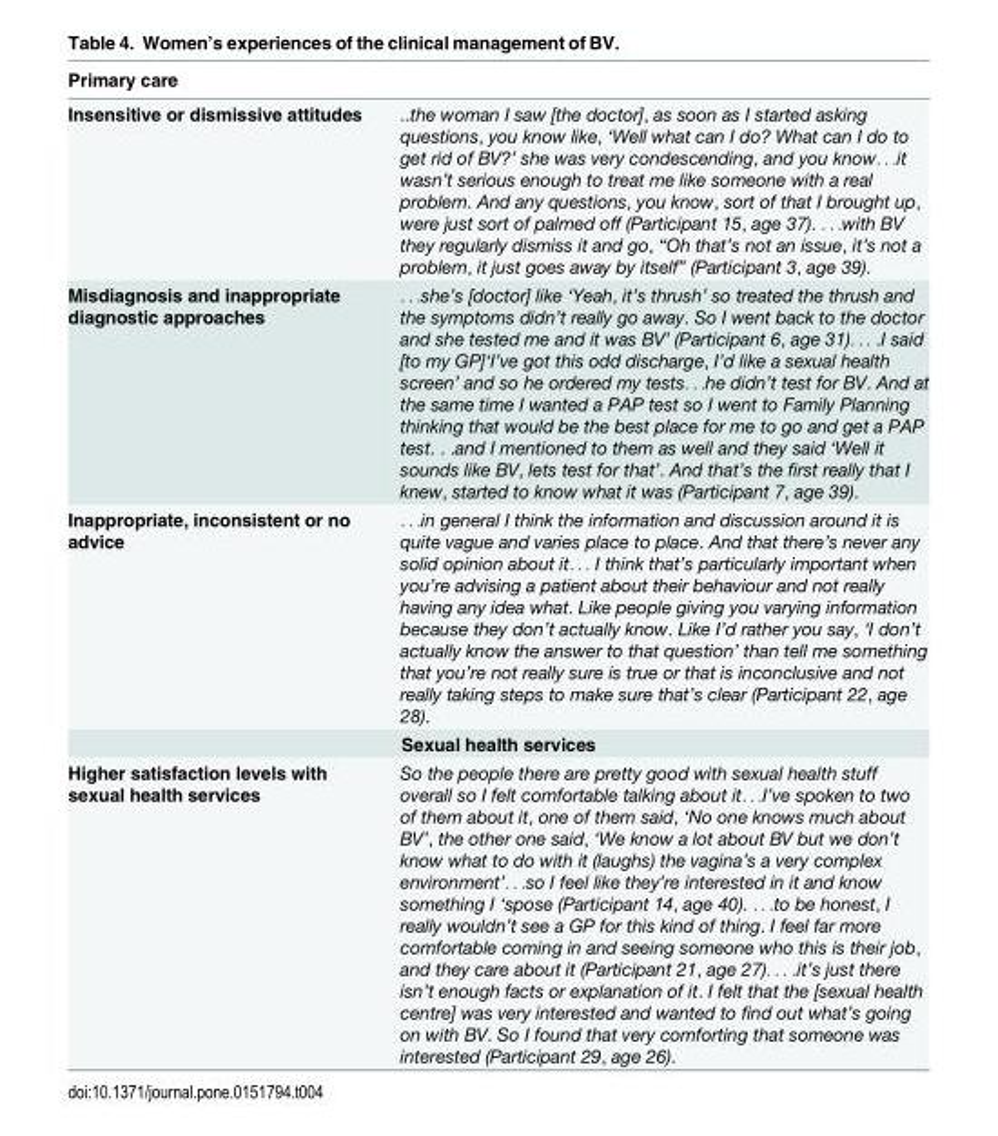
<table><thead><tr><td colspan="2">Primary care</td></tr><tr><td>Insensitive or dismissive attitudes</td><td>..the woman I saw [the doctor], as soon as I started asking questions, you know like, ‘Well what can I do? What can I do to get rid of BV?’ she was very condescending, and you know. . .it wasn’t serious enough to treat me like someone with a real problem. And any questions, you know, sort of that I brought up, were just sort of palmed off (Participant 15, age 37). . . .with BV they regularly dismiss it and go, “Oh that’s not an issue, it’s not a problem, it just goes away by itself” (Participant 3, age 39).</td></tr></thead><tbody><tr><td>Misdiagnosis and inappropriate diagnostic approaches</td><td>. . .she’s [doctor] like ‘Yeah, it’s thrush’ so treated the thrush and the symptoms didn’t really go away. So I went back to the doctor and she tested me and it was BV’ (Participant 6, age 31). . . .I said [to my GP]‘I’ve got this odd discharge, I’d like a sexual health screen’ and so he ordered my tests. . .he didn’t test for BV. And at the same time I wanted a PAP test so I went to Family Planning thinking that would be the best place for me to go and get a PAP test. . .and I mentioned to them as well and they said ‘Well it sounds like BV, lets test for that’. And that’s the first really that I knew, started to know what it was (Participant 7, age 39).</td></tr><tr><td>Inappropriate, inconsistent or no advice</td><td>. . .in general I think the information and discussion around it is quite vague and varies place to place. And that there’s never any solid opinion about it. . . I think that’s particularly important when you’re advising a patient about their behaviour and not really having any idea what. Like people giving you varying information because they don’t actually know. Like I’d rather you say, ‘I don’t actually know the answer to that question’ than tell me something that you’re not really sure is true or that is inconclusive and not really taking steps to make sure that’s clear (Participant 22, age 28).</td></tr><tr><td colspan="2">Sexual health services</td></tr><tr><td>Higher satisfaction levels with sexual health services</td><td>So the people there are pretty good with sexual health stuff overall so I felt comfortable talking about it. . .I’ve spoken to two of them about it, one of them said, ‘No one knows much about BV’, the other one said, ‘We know a lot about BV but we don’t know what to do with it (laughs) the vagina’s a very complex environment’. . .so I feel like they’re interested in it and know something I ‘spose (Participant 14, age 40). . . .to be honest, I really wouldn’t see a GP for this kind of thing. I feel far more comfortable coming in and seeing someone who this is their job, and they care about it (Participant 21, age 27). . . .it’s just there isn’t enough facts or explanation of it. I felt that the [sexual health centre] was very interested and wanted to find out what’s going on with BV. So I found that very comforting that someone was interested (Participant 29, age 26).</td></tr></tbody></table>